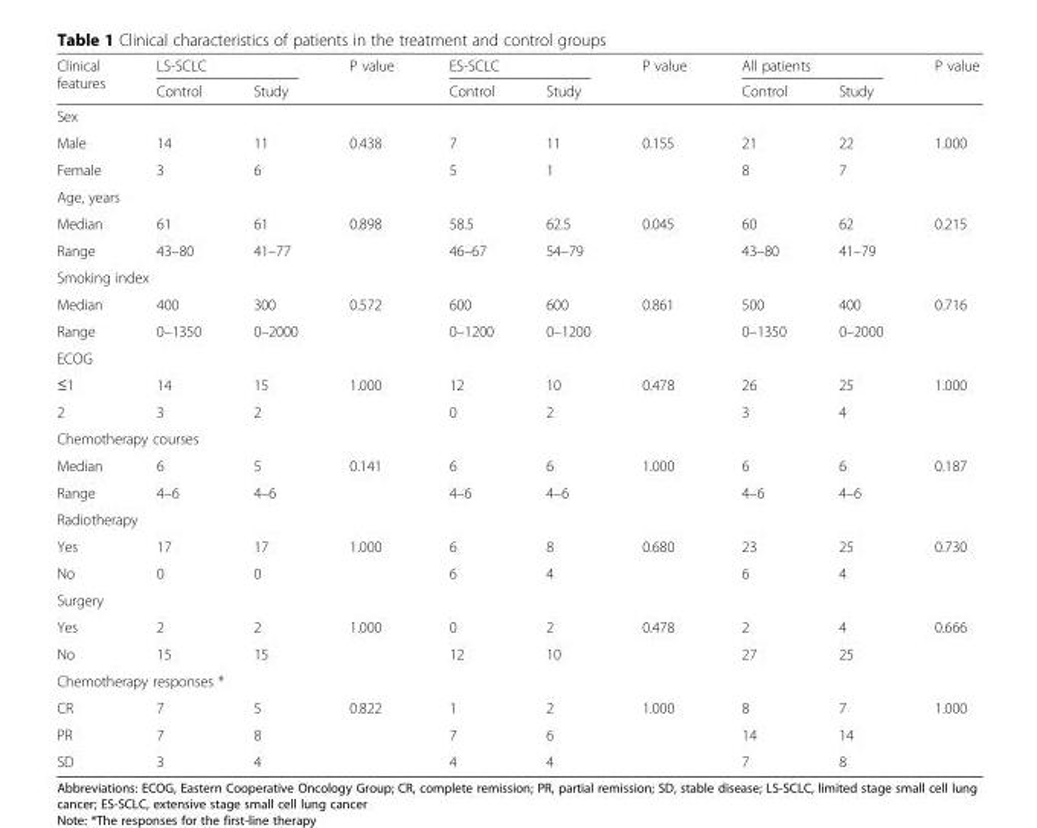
<table><thead><tr><td rowspan="2">Clinical features</td><td colspan="2">LS-SCLC</td><td rowspan="2">P value</td><td colspan="2">ES-SCLC</td><td rowspan="2">P value</td><td colspan="2">All patients</td><td rowspan="2">P value</td></tr><tr><td>Control</td><td>Study</td><td>Control</td><td>Study</td><td>Control</td><td>Study</td></tr></thead><tbody><tr><td colspan="10">Sex</td></tr><tr><td>Male</td><td>14</td><td>11</td><td rowspan="2">0.438</td><td>7</td><td>11</td><td rowspan="2">0.155</td><td>21</td><td>22</td><td rowspan="2">1.000</td></tr><tr><td>Female</td><td>3</td><td>6</td><td>5</td><td>1</td><td>8</td><td>7</td></tr><tr><td colspan="10">Age, years</td></tr><tr><td>Median</td><td>61</td><td>61</td><td rowspan="2">0.898</td><td>58.5</td><td>62.5</td><td rowspan="2">0.045</td><td>60</td><td>62</td><td rowspan="2">0.215</td></tr><tr><td>Range</td><td>43–80</td><td>41–77</td><td>46–67</td><td>54–79</td><td>43–80</td><td>41–79</td></tr><tr><td colspan="10">Smoking index</td></tr><tr><td>Median</td><td>400</td><td>300</td><td rowspan="2">0.572</td><td>600</td><td>600</td><td rowspan="2">0.861</td><td>500</td><td>400</td><td rowspan="2">0.716</td></tr><tr><td>Range</td><td>0–1350</td><td>0–2000</td><td>0–1200</td><td>0–1200</td><td>0–1350</td><td>0–2000</td></tr><tr><td colspan="10">ECOG</td></tr><tr><td>≤1</td><td>14</td><td>15</td><td rowspan="2">1.000</td><td>12</td><td>10</td><td rowspan="2">0.478</td><td>26</td><td>25</td><td rowspan="2">1.000</td></tr><tr><td>2</td><td>3</td><td>2</td><td>0</td><td>2</td><td>3</td><td>4</td></tr><tr><td colspan="10">Chemotherapy courses</td></tr><tr><td>Median</td><td>6</td><td>5</td><td rowspan="2">0.141</td><td>6</td><td>6</td><td>1.000</td><td>6</td><td>6</td><td rowspan="2">0.187</td></tr><tr><td>Range</td><td>4–6</td><td>4–6</td><td>4–6</td><td>4–6</td><td></td><td>4–6</td><td>4–6</td></tr><tr><td colspan="10">Radiotherapy</td></tr><tr><td>Yes</td><td>17</td><td>17</td><td rowspan="2">1.000</td><td>6</td><td>8</td><td>0.680</td><td>23</td><td>25</td><td rowspan="2">0.730</td></tr><tr><td>No</td><td>0</td><td>0</td><td>6</td><td>4</td><td></td><td>6</td><td>4</td></tr><tr><td colspan="10">Surgery</td></tr><tr><td>Yes</td><td>2</td><td>2</td><td rowspan="2">1.000</td><td>0</td><td>2</td><td rowspan="2">0.478</td><td>2</td><td>4</td><td rowspan="2">0.666</td></tr><tr><td>No</td><td>15</td><td>15</td><td>12</td><td>10</td><td>27</td><td>25</td></tr><tr><td colspan="10">Chemotherapy responses *</td></tr><tr><td>CR</td><td>7</td><td>5</td><td rowspan="3">0.822</td><td>1</td><td>2</td><td rowspan="3">1.000</td><td>8</td><td>7</td><td rowspan="3">1.000</td></tr><tr><td>PR</td><td>7</td><td>8</td><td>7</td><td>6</td><td>14</td><td>14</td></tr><tr><td>SD</td><td>3</td><td>4</td><td>4</td><td>4</td><td>7</td><td>8</td></tr></tbody></table>